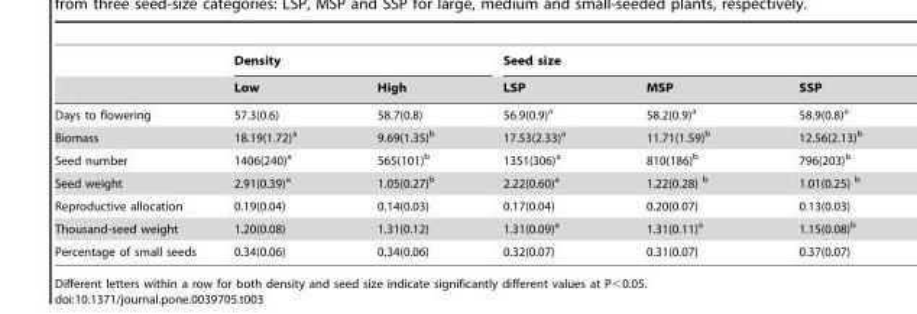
<table><thead><tr><td rowspan="2"></td><td colspan="2">Density</td><td colspan="3">Seed size</td></tr><tr><td>Low</td><td>High</td><td>LSP</td><td>MSP</td><td>SSP</td></tr></thead><tbody><tr><td>Days to flowering</td><td>57.3(0.6)</td><td>58.7(0.8)</td><td>56.9(0.9)<sup>a</sup></td><td>58.2(0.9)<sup>a</sup></td><td>58.9(0.8)<sup>a</sup></td></tr><tr><td>Biomass</td><td>18.19(1.72)<sup>a</sup></td><td>9.69(1.35)<sup>b</sup></td><td>17.53(2.33)<sup>a</sup></td><td>11.71(1.59)<sup>b</sup></td><td>12.56(2.13)<sup>b</sup></td></tr><tr><td>Seed number</td><td>1406(240)<sup>a</sup></td><td>565(101)<sup>b</sup></td><td>1351(306)<sup>a</sup></td><td>810(186)<sup>b</sup></td><td>796(203)<sup>b</sup></td></tr><tr><td>Seed weight</td><td>2.91(0.39)<sup>a</sup></td><td>1.05(0.27)<sup>b</sup></td><td>2.22(0.60)<sup>a</sup></td><td>1.22(0.28) <sup>b</sup></td><td>1.01(0.25) <sup>b</sup></td></tr><tr><td>Reproductive allocation</td><td>0.19(0.04)</td><td>0.14(0.03)</td><td>0.17(0.04)</td><td>0.20(0.07)</td><td>0.13(0.03)</td></tr><tr><td>Thousand-seed weight</td><td>1.20(0.08)</td><td>1.31(0.12)</td><td>1.31(0.09)<sup>a</sup></td><td>1.31(0.11)<sup>a</sup></td><td>1.15(0.08)<sup>b</sup></td></tr><tr><td>Percentage of small seeds</td><td>0.34(0.06)</td><td>0.34(0.06)</td><td>0.32(0.07)</td><td>0.31(0.07)</td><td>0.37(0.07)</td></tr></tbody></table>